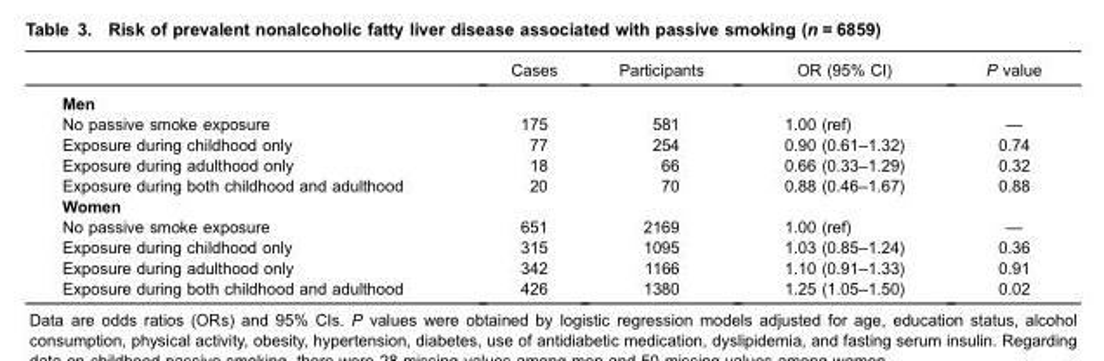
<table><thead><tr><td></td><td>Cases</td><td>Participants</td><td>OR (95% CI)</td><td>P value</td></tr></thead><tbody><tr><td colspan="5">Men</td></tr><tr><td>No passive smoke exposure</td><td>175</td><td>581</td><td>1.00 (ref)</td><td>—</td></tr><tr><td>Exposure during childhood only</td><td>77</td><td>254</td><td>0.90 (0.61–1.32)</td><td>0.74</td></tr><tr><td>Exposure during adulthood only</td><td>18</td><td>66</td><td>0.66 (0.33–1.29)</td><td>0.32</td></tr><tr><td>Exposure during both childhood and adulthood</td><td>20</td><td>70</td><td>0.88 (0.46–1.67)</td><td>0.88</td></tr><tr><td colspan="5">Women</td></tr><tr><td>No passive smoke exposure</td><td>651</td><td>2169</td><td>1.00 (ref)</td><td>—</td></tr><tr><td>Exposure during childhood only</td><td>315</td><td>1095</td><td>1.03 (0.85–1.24)</td><td>0.36</td></tr><tr><td>Exposure during adulthood only</td><td>342</td><td>1166</td><td>1.10 (0.91–1.33)</td><td>0.91</td></tr><tr><td>Exposure during both childhood and adulthood</td><td>426</td><td>1380</td><td>1.25 (1.05–1.50)</td><td>0.02</td></tr></tbody></table>